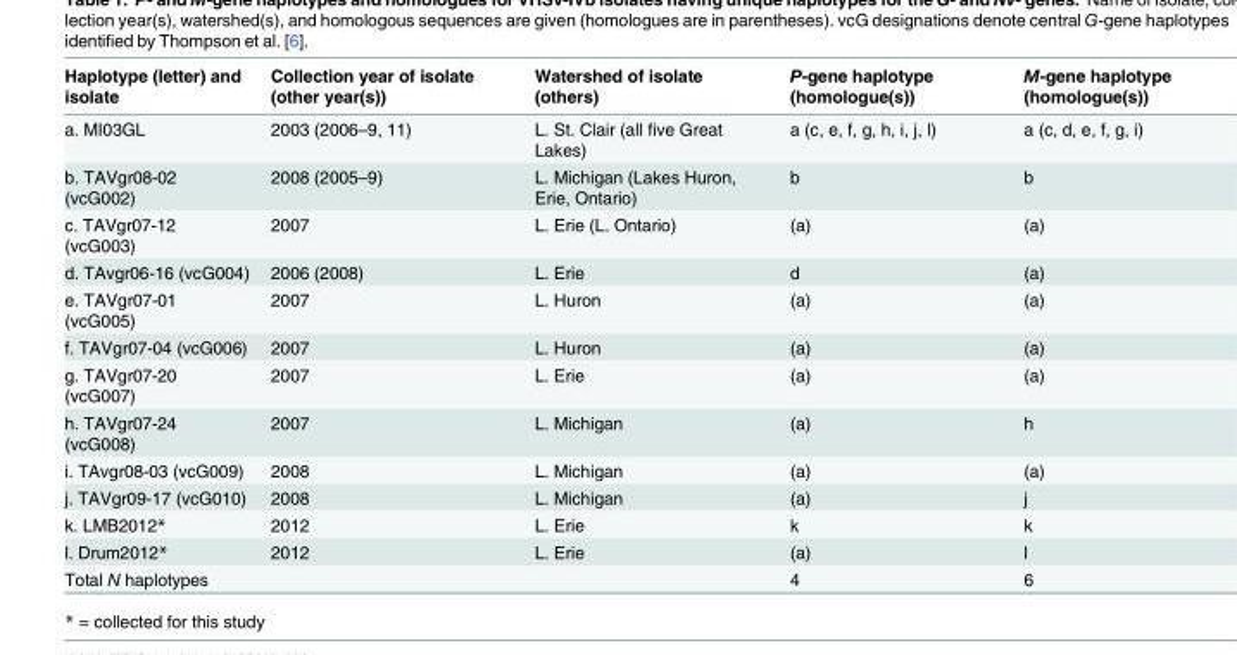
<table><thead><tr><td>Haplotype (letter) and isolate</td><td>Collection year of isolate (other year(s))</td><td>Watershed of isolate (others)</td><td>P-gene haplotype (homologue(s))</td><td>M-gene haplotype (homologue(s))</td></tr></thead><tbody><tr><td>a. MI03GL</td><td>2003 (2006–9, 11)</td><td>L. St. Clair (all five Great Lakes)</td><td>a (c, e, f, g, h, i, j, l)</td><td>a (c, d, e, f, g, i)</td></tr><tr><td>b. TAVgr08-02 (vcG002)</td><td>2008 (2005–9)</td><td>L. Michigan (Lakes Huron, Erie, Ontario)</td><td>b</td><td>b</td></tr><tr><td>c. TAVgr07-12 (vcG003)</td><td>2007</td><td>L. Erie (L. Ontario)</td><td>(a)</td><td>(a)</td></tr><tr><td>d. TAvgr06-16 (vcG004)</td><td>2006 (2008)</td><td>L. Erie</td><td>d</td><td>(a)</td></tr><tr><td>e. TAVgr07-01 (vcG005)</td><td>2007</td><td>L. Huron</td><td>(a)</td><td>(a)</td></tr><tr><td>f. TAVgr07-04 (vcG006)</td><td>2007</td><td>L. Huron</td><td>(a)</td><td>(a)</td></tr><tr><td>g. TAVgr07-20 (vcG007)</td><td>2007</td><td>L. Erie</td><td>(a)</td><td>(a)</td></tr><tr><td>h. TAVgr07-24 (vcG008)</td><td>2007</td><td>L. Michigan</td><td>(a)</td><td>h</td></tr><tr><td>i. TAvgr08-03 (vcG009)</td><td>2008</td><td>L. Michigan</td><td>(a)</td><td>(a)</td></tr><tr><td>j. TAVgr09-17 (vcG010)</td><td>2008</td><td>L. Michigan</td><td>(a)</td><td>j</td></tr><tr><td>k. LMB2012*</td><td>2012</td><td>L. Erie</td><td>k</td><td>k</td></tr><tr><td>l. Drum2012*</td><td>2012</td><td>L. Erie</td><td>(a)</td><td>l</td></tr><tr><td colspan="2">Total N haplotypes</td><td></td><td>4</td><td>6</td></tr></tbody></table>